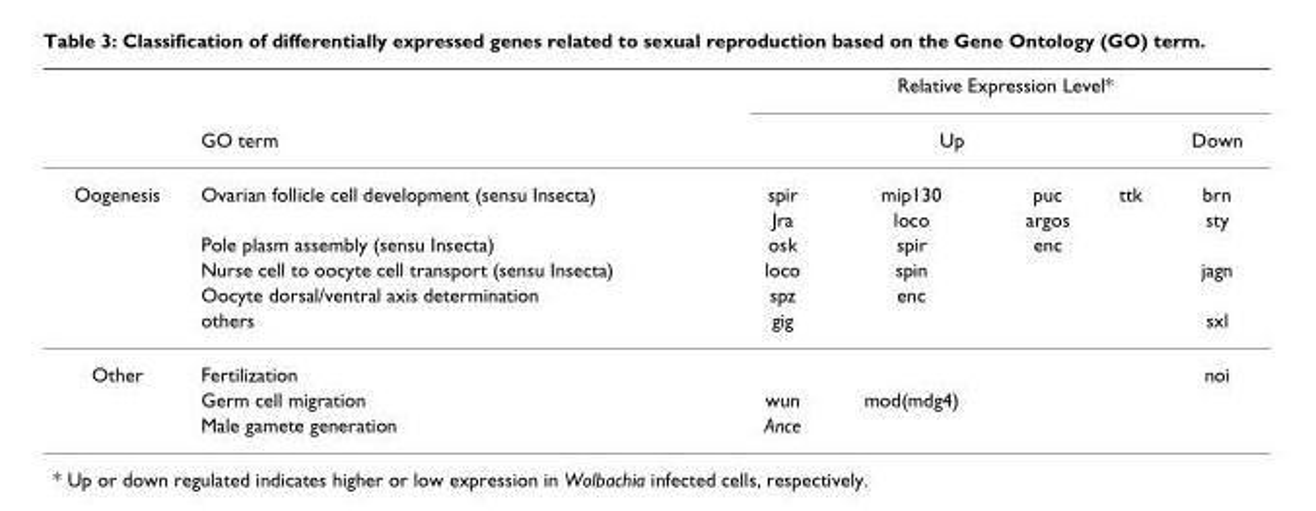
<table><thead><tr><td rowspan="3">Oogenesis</td><td rowspan="3">GO term Ovarian follicle cell development (sensu Insecta)</td><td colspan="5">Relative Expression Level*</td></tr><tr><td colspan="4">Up</td><td rowspan="2">Down brn</td></tr><tr><td>spir</td><td>mip130</td><td>puc</td><td>ttk</td></tr></thead><tbody><tr><td></td><td></td><td>Jra</td><td>loco</td><td>argos</td><td></td><td>sty</td></tr><tr><td></td><td>Pole plasm assembly (sensu Insecta)</td><td>osk</td><td>spir</td><td>enc</td><td></td><td></td></tr><tr><td></td><td>Nurse cell to oocyte cell transport (sensu Insecta)</td><td>loco</td><td>spin</td><td></td><td></td><td>jagn</td></tr><tr><td></td><td>Oocyte dorsal/ventral axis determination</td><td>spz</td><td>enc</td><td></td><td></td><td></td></tr><tr><td></td><td>others</td><td>gig</td><td></td><td></td><td></td><td>sxl</td></tr><tr><td rowspan="3">Other</td><td>Fertilization</td><td></td><td></td><td></td><td></td><td>noi</td></tr><tr><td>Germ cell migration</td><td>wun</td><td>mod(mdg4)</td><td></td><td></td><td></td></tr><tr><td>Male gamete generation</td><td>Ance</td><td></td><td></td><td></td><td></td></tr></tbody></table>